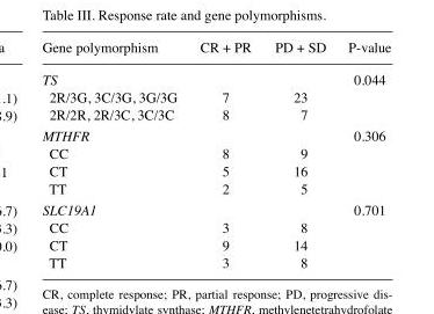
<table><thead><tr><td>Gene polymorphism</td><td>CR + PR</td><td>PD + SD</td><td>P-value</td></tr></thead><tbody><tr><td>TS</td><td></td><td></td><td>0.044</td></tr><tr><td>2R/3G, 3C/3G, 3G/3G</td><td>7</td><td>23</td><td></td></tr><tr><td>2R/2R, 2R/3C, 3C/3C</td><td>8</td><td>7</td><td></td></tr><tr><td>MTHFR</td><td></td><td></td><td>0.306</td></tr><tr><td>CC</td><td>8</td><td>9</td><td></td></tr><tr><td>CT</td><td>5</td><td>16</td><td></td></tr><tr><td>TT</td><td>2</td><td>5</td><td></td></tr><tr><td>SLC19A1</td><td></td><td></td><td>0.701</td></tr><tr><td>CC</td><td>3</td><td>8</td><td></td></tr><tr><td>CT</td><td>9</td><td>14</td><td></td></tr><tr><td>TT</td><td>3</td><td>8</td><td></td></tr></tbody></table>